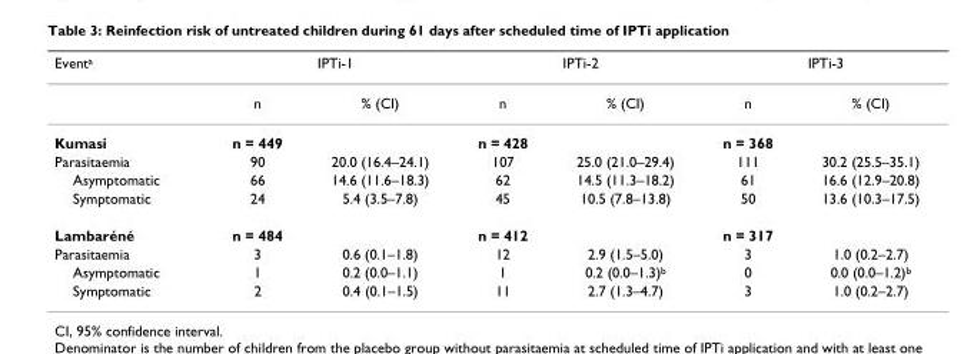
<table><thead><tr><td rowspan="2">Event<sup>a</sup></td><td colspan="2">IPTi-1</td><td colspan="2">IPTi-2</td><td colspan="2">IPTi-3</td></tr><tr><td>n</td><td>% (CI)</td><td>n</td><td>% (CI)</td><td>n</td><td>% (CI)</td></tr></thead><tbody><tr><td>Kumasi</td><td>n = 449</td><td></td><td>n = 428</td><td></td><td>n = 368</td><td></td></tr><tr><td>Parasitaemia</td><td>90</td><td>20.0 (16.4–24.1)</td><td>107</td><td>25.0 (21.0–29.4)</td><td>111</td><td>30.2 (25.5–35.1)</td></tr><tr><td>Asymptomatic</td><td>66</td><td>14.6 (11.6–18.3)</td><td>62</td><td>14.5 (11.3–18.2)</td><td>61</td><td>16.6 (12.9–20.8)</td></tr><tr><td>Symptomatic</td><td>24</td><td>5.4 (3.5–7.8)</td><td>45</td><td>10.5 (7.8–13.8)</td><td>50</td><td>13.6 (10.3–17.5)</td></tr><tr><td>Lambaréné</td><td>n = 484</td><td></td><td>n = 412</td><td></td><td>n = 317</td><td></td></tr><tr><td>Parasitaemia</td><td>3</td><td>0.6 (0.1–1.8)</td><td>12</td><td>2.9 (1.5–5.0)</td><td>3</td><td>1.0 (0.2–2.7)</td></tr><tr><td>Asymptomatic</td><td>1</td><td>0.2 (0.0–1.1)</td><td>1</td><td>0.2 (0.0–1.3)<sup>b</sup></td><td>0</td><td>0.0 (0.0–1.2)<sup>b</sup></td></tr><tr><td>Symptomatic</td><td>2</td><td>0.4 (0.1–1.5)</td><td>11</td><td>2.7 (1.3–4.7)</td><td>3</td><td>1.0 (0.2–2.7)</td></tr></tbody></table>